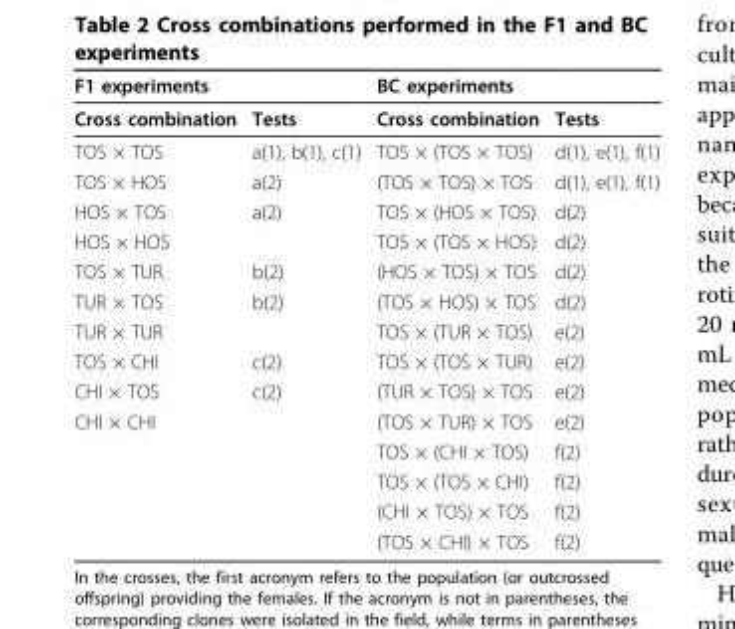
<table><thead><tr><td>F1 experiments</td><td></td><td>BC experiments</td><td></td></tr></thead><tbody><tr><td>Cross combination</td><td>Tests</td><td>Cross combination</td><td>Tests</td></tr><tr><td>TOS × TOS</td><td>a(1), b(1), c(1)</td><td>TOS × (TOS × TOS)</td><td>d(1), e(1), f(1)</td></tr><tr><td>TOS × HOS</td><td>a(2)</td><td>(TOS × TOS) × TOS</td><td>d(1), e(1), f(1)</td></tr><tr><td>HOS × TOS</td><td>a(2)</td><td>TOS × (HOS × TOS)</td><td>d(2)</td></tr><tr><td>HOS × HOS</td><td></td><td>TOS × (TOS × HOS)</td><td>d(2)</td></tr><tr><td>TOS × TUR</td><td>b(2)</td><td>(HOS × TOS) × TOS</td><td>d(2)</td></tr><tr><td>TUR × TOS</td><td>b(2)</td><td>(TOS × HOS) × TOS</td><td>d(2)</td></tr><tr><td>TUR × TUR</td><td></td><td>TOS × (TUR × TOS)</td><td>e(2)</td></tr><tr><td>TOS × CHI</td><td>c(2)</td><td>TOS × (TOS × TUR)</td><td>e(2)</td></tr><tr><td>CHI × TOS</td><td>c(2)</td><td>(TUR × TOS) × TOS</td><td>e(2)</td></tr><tr><td rowspan="5">CHI × CHI</td><td></td><td>(TOS × TUR) × TOS</td><td>e(2)</td></tr><tr><td></td><td>TOS × (CHI × TOS)</td><td>f(2)</td></tr><tr><td></td><td>TOS × (TOS × CHI)</td><td>f(2)</td></tr><tr><td></td><td>(CHI × TOS) × TOS</td><td>f(2)</td></tr><tr><td></td><td>(TOS × CHI) × TOS</td><td>f(2)</td></tr></tbody></table>